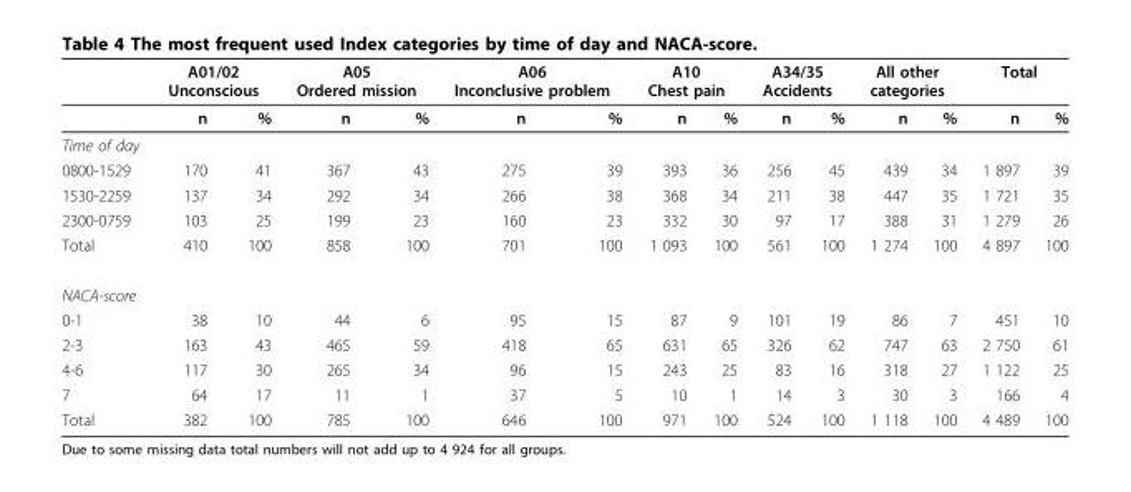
<table><thead><tr><td rowspan="2"></td><td colspan="2">A01/02 Unconscious</td><td colspan="2">A05 Ordered mission</td><td colspan="2">A06 Inconclusive problem</td><td colspan="2">A10 Chest pain</td><td colspan="2">A34/35 Accidents</td><td colspan="2">All other categories</td><td colspan="2">Total</td></tr><tr><td>n</td><td>%</td><td>n</td><td>%</td><td>n</td><td>%</td><td>n</td><td>%</td><td>n</td><td>%</td><td>n</td><td>%</td><td>n</td><td>%</td></tr></thead><tbody><tr><td colspan="15">Time of day</td></tr><tr><td>0800-1529</td><td>170</td><td>41</td><td>367</td><td>43</td><td>275</td><td>39</td><td>393</td><td>36</td><td>256</td><td>45</td><td>439</td><td>34</td><td>1 897</td><td>39</td></tr><tr><td>1530-2259</td><td>137</td><td>34</td><td>292</td><td>34</td><td>266</td><td>38</td><td>368</td><td>34</td><td>211</td><td>38</td><td>447</td><td>35</td><td>1 721</td><td>35</td></tr><tr><td>2300-0759</td><td>103</td><td>25</td><td>199</td><td>23</td><td>160</td><td>23</td><td>332</td><td>30</td><td>97</td><td>17</td><td>388</td><td>31</td><td>1 279</td><td>26</td></tr><tr><td>Total</td><td>410</td><td>100</td><td>858</td><td>100</td><td>701</td><td>100</td><td>1 093</td><td>100</td><td>561</td><td>100</td><td>1 274</td><td>100</td><td>4 897</td><td>100</td></tr><tr><td colspan="15">NACA-score</td></tr><tr><td>0-1</td><td>38</td><td>10</td><td>44</td><td>6</td><td>95</td><td>15</td><td>87</td><td>9</td><td>101</td><td>19</td><td>86</td><td>7</td><td>451</td><td>10</td></tr><tr><td>2-3</td><td>163</td><td>43</td><td>465</td><td>59</td><td>418</td><td>65</td><td>631</td><td>65</td><td>326</td><td>62</td><td>747</td><td>63</td><td>2 750</td><td>61</td></tr><tr><td>4-6</td><td>117</td><td>30</td><td>265</td><td>34</td><td>96</td><td>15</td><td>243</td><td>25</td><td>83</td><td>16</td><td>318</td><td>27</td><td>1 122</td><td>25</td></tr><tr><td>7</td><td>64</td><td>17</td><td>11</td><td>1</td><td>37</td><td>5</td><td>10</td><td>1</td><td>14</td><td>3</td><td>30</td><td>3</td><td>166</td><td>4</td></tr><tr><td>Total</td><td>382</td><td>100</td><td>785</td><td>100</td><td>646</td><td>100</td><td>971</td><td>100</td><td>524</td><td>100</td><td>1 118</td><td>100</td><td>4 489</td><td>100</td></tr></tbody></table>